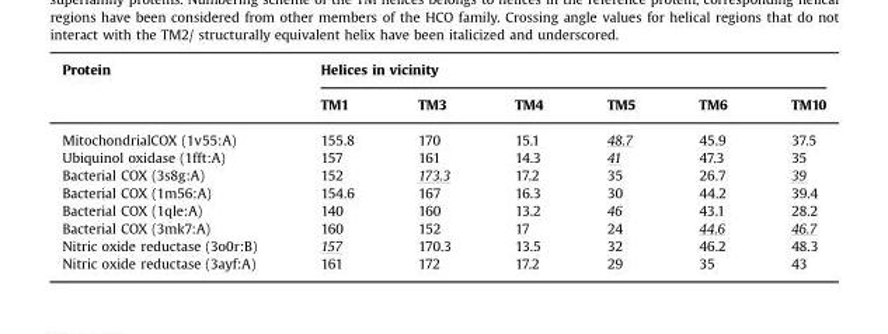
<table><thead><tr><td rowspan="2">Protein</td><td colspan="6">Helices in vicinity</td></tr><tr><td>TM1</td><td>TM3</td><td>TM4</td><td>TM5</td><td>TM6</td><td>TM10</td></tr></thead><tbody><tr><td>MitochondrialCOX (1v55:A)</td><td>155.8</td><td>170</td><td>15.1</td><td>48.7</td><td>45.9</td><td>37.5</td></tr><tr><td>Ubiquinol oxidase (1fft:A)</td><td>157</td><td>161</td><td>14.3</td><td>41</td><td>47.3</td><td>35</td></tr><tr><td>Bacterial COX (3s8g:A)</td><td>152</td><td>173.3</td><td>17.2</td><td>35</td><td>26.7</td><td>39</td></tr><tr><td>Bacterial COX (1m56:A)</td><td>154.6</td><td>167</td><td>16.3</td><td>30</td><td>44.2</td><td>39.4</td></tr><tr><td>Bacterial COX (1qle:A)</td><td>140</td><td>160</td><td>13.2</td><td>46</td><td>43.1</td><td>28.2</td></tr><tr><td>Bacterial COX (3mk7:A)</td><td>160</td><td>152</td><td>17</td><td>24</td><td>44.6</td><td>46.7</td></tr><tr><td>Nitric oxide reductase (3o0r:B)</td><td>157</td><td>170.3</td><td>13.5</td><td>32</td><td>46.2</td><td>48.3</td></tr><tr><td>Nitric oxide reductase (3ayf:A)</td><td>161</td><td>172</td><td>17.2</td><td>29</td><td>35</td><td>43</td></tr></tbody></table>